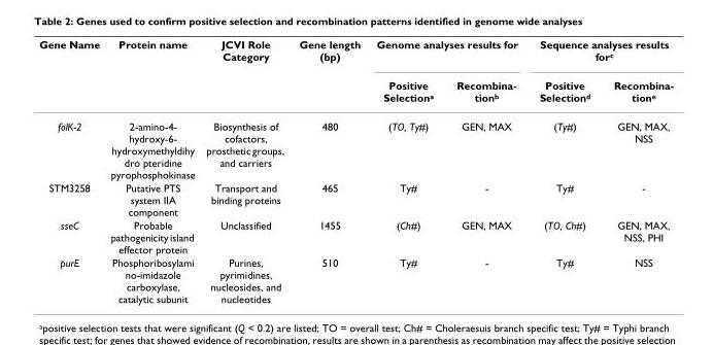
<table><thead><tr><td rowspan="2">Gene Name</td><td rowspan="2">Protein name</td><td rowspan="2">JCVI Role Category</td><td rowspan="2">Gene length (bp)</td><td colspan="2">Genome analyses results for</td><td colspan="2">Sequence analyses results for<sup>c</sup></td></tr><tr><td>Positive Selection<sup>a</sup></td><td>Recombina- tionb</td><td>Positive Selection<sup>d</sup></td><td>Recombina- tione</td></tr></thead><tbody><tr><td>folK-2</td><td>2-amino-4- hydroxy-6- hydroxymethyldihy dro pteridine pyrophosphokinase</td><td>Biosynthesis of cofactors, prosthetic groups, and carriers</td><td>480</td><td>(TO, Ty#)</td><td>GEN, MAX</td><td>(Ty#)</td><td>GEN, MAX, NSS</td></tr><tr><td>STM3258</td><td>Putative PTS system IIA component</td><td>Transport and binding proteins</td><td>465</td><td>Ty#</td><td>-</td><td>Ty#</td><td>-</td></tr><tr><td>sseC</td><td>Probable pathogenicity island effector protein</td><td>Unclassified</td><td>1455</td><td>(Ch#)</td><td>GEN, MAX</td><td>(TO, Ch#)</td><td>GEN, MAX, NSS, PHI</td></tr><tr><td>purE</td><td>Phosphoribosylami no-imidazole carboxylase, catalytic subunit</td><td>Purines, pyrimidines, nucleosides, and nucleotides</td><td>510</td><td>Ty#</td><td>-</td><td>Ty#</td><td>NSS</td></tr></tbody></table>